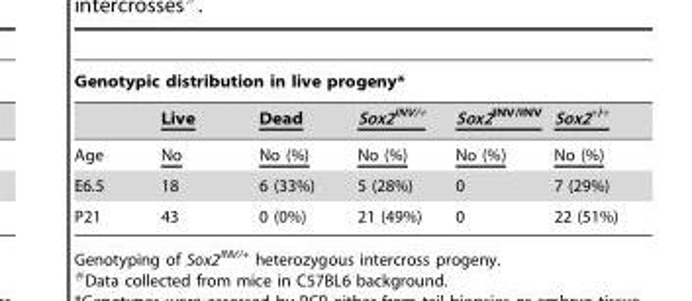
<table><thead><tr><td colspan="6">Genotypic distribution in live progeny*</td></tr><tr><td></td><td>Live</td><td>Dead</td><td>Sox2<sup>INV/+</sup></td><td>Sox2<sup>INV/INV</sup></td><td>Sox2<sup>+/+</sup></td></tr></thead><tbody><tr><td>Age</td><td>No</td><td>No (%)</td><td>No (%)</td><td>No (%)</td><td>No (%)</td></tr><tr><td>E6.5</td><td>18</td><td>6 (33%)</td><td>5 (28%)</td><td>0</td><td>7 (29%)</td></tr><tr><td>P21</td><td>43</td><td>0 (0%)</td><td>21 (49%)</td><td>0</td><td>22 (51%)</td></tr></tbody></table>